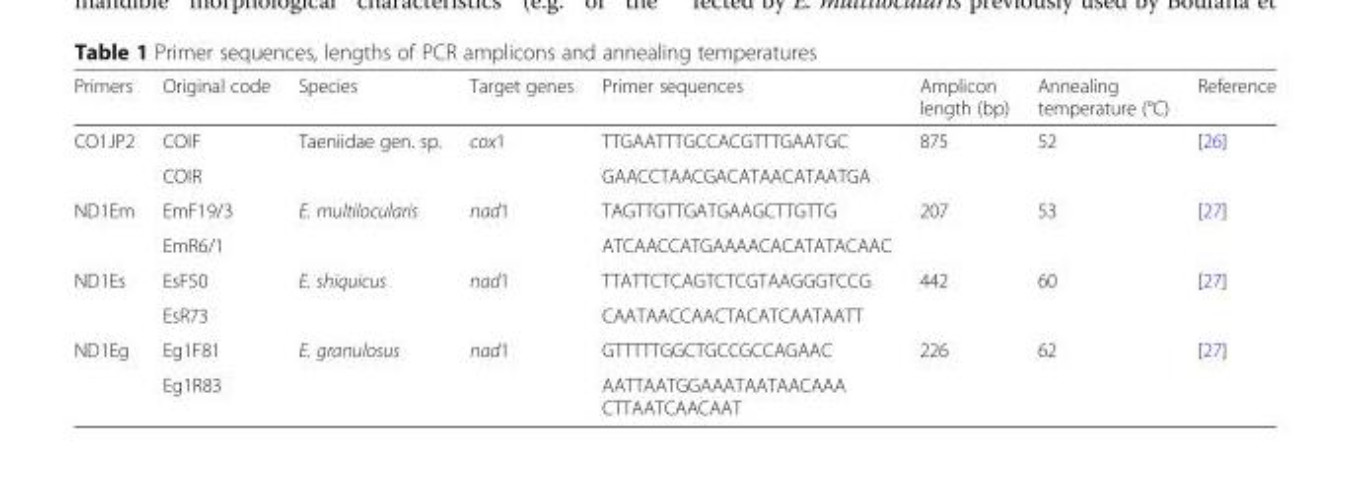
<table><thead><tr><td>Primers</td><td>Original code</td><td>Species</td><td>Target genes</td><td>Primer sequences</td><td>Amplicon length (bp)</td><td>Annealing temperature (°C)</td><td>Reference</td></tr></thead><tbody><tr><td rowspan="2">CO1JP2</td><td>COIF</td><td rowspan="2">Taeniidae gen. sp.</td><td rowspan="2">cox1</td><td>TTGAATTTGCCACGTTTGAATGC</td><td rowspan="2">875</td><td rowspan="2">52</td><td rowspan="2">[26]</td></tr><tr><td>COIR</td><td>GAACCTAACGACATAACATAATGA</td></tr><tr><td rowspan="2">ND1Em</td><td>EmF19/3</td><td rowspan="2">E. multilocularis</td><td rowspan="2">nad1</td><td>TAGTTGTTGATGAAGCTTGTTG</td><td rowspan="2">207</td><td rowspan="2">53</td><td rowspan="2">[27]</td></tr><tr><td>EmR6/1</td><td>ATCAACCATGAAAACACATATACAAC</td></tr><tr><td rowspan="2">ND1Es</td><td>EsF50</td><td rowspan="2">E. shiquicus</td><td rowspan="2">nad1</td><td>TTATTCTCAGTCTCGTAAGGGTCCG</td><td rowspan="2">442</td><td rowspan="2">60</td><td rowspan="2">[27]</td></tr><tr><td>EsR73</td><td>CAATAACCAACTACATCAATAATT</td></tr><tr><td rowspan="2">ND1Eg</td><td>Eg1F81</td><td rowspan="2">E. granulosus</td><td rowspan="2">nad1</td><td>GTTTTTGGCTGCCGCCAGAAC</td><td rowspan="2">226</td><td rowspan="2">62</td><td rowspan="2">[27]</td></tr><tr><td>Eg1R83</td><td>AATTAATGGAAATAATAACAAA CTTAATCAACAAT</td></tr></tbody></table>